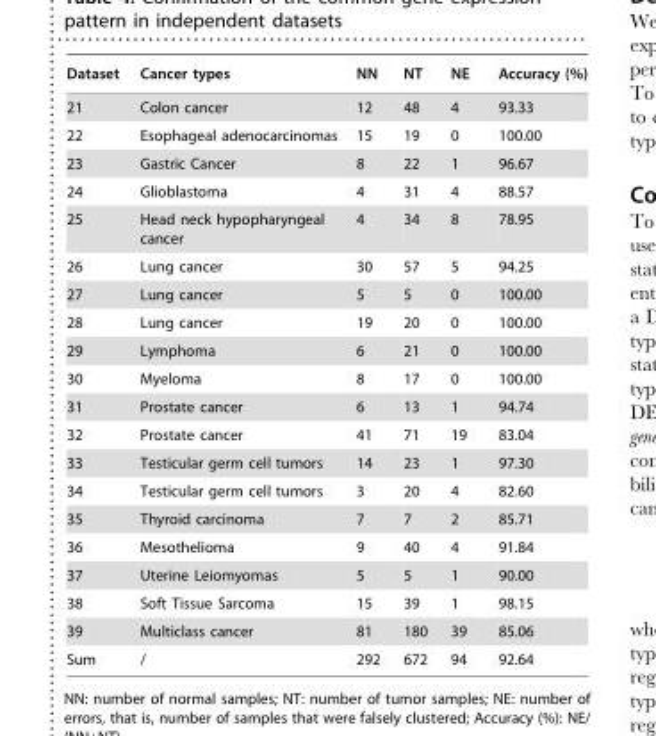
<table><thead><tr><td>Dataset</td><td>Cancer types</td><td>NN</td><td>NT</td><td>NE</td><td>Accuracy (%)</td></tr></thead><tbody><tr><td>21</td><td>Colon cancer</td><td>12</td><td>48</td><td>4</td><td>93.33</td></tr><tr><td>22</td><td>Esophageal adenocarcinomas</td><td>15</td><td>19</td><td>0</td><td>100.00</td></tr><tr><td>23</td><td>Gastric Cancer</td><td>8</td><td>22</td><td>1</td><td>96.67</td></tr><tr><td>24</td><td>Glioblastoma</td><td>4</td><td>31</td><td>4</td><td>88.57</td></tr><tr><td>25</td><td>Head neck hypopharyngeal cancer</td><td>4</td><td>34</td><td>8</td><td>78.95</td></tr><tr><td>26</td><td>Lung cancer</td><td>30</td><td>57</td><td>5</td><td>94.25</td></tr><tr><td>27</td><td>Lung cancer</td><td>5</td><td>5</td><td>0</td><td>100.00</td></tr><tr><td>28</td><td>Lung cancer</td><td>19</td><td>20</td><td>0</td><td>100.00</td></tr><tr><td>29</td><td>Lymphoma</td><td>6</td><td>21</td><td>0</td><td>100.00</td></tr><tr><td>30</td><td>Myeloma</td><td>8</td><td>17</td><td>0</td><td>100.00</td></tr><tr><td>31</td><td>Prostate cancer</td><td>6</td><td>13</td><td>1</td><td>94.74</td></tr><tr><td>32</td><td>Prostate cancer</td><td>41</td><td>71</td><td>19</td><td>83.04</td></tr><tr><td>33</td><td>Testicular germ cell tumors</td><td>14</td><td>23</td><td>1</td><td>97.30</td></tr><tr><td>34</td><td>Testicular germ cell tumors</td><td>3</td><td>20</td><td>4</td><td>82.60</td></tr><tr><td>35</td><td>Thyroid carcinoma</td><td>7</td><td>7</td><td>2</td><td>85.71</td></tr><tr><td>36</td><td>Mesothelioma</td><td>9</td><td>40</td><td>4</td><td>91.84</td></tr><tr><td>37</td><td>Uterine Leiomyomas</td><td>5</td><td>5</td><td>1</td><td>90.00</td></tr><tr><td>38</td><td>Soft Tissue Sarcoma</td><td>15</td><td>39</td><td>1</td><td>98.15</td></tr><tr><td>39</td><td>Multiclass cancer</td><td>81</td><td>180</td><td>39</td><td>85.06</td></tr><tr><td>Sum</td><td>/</td><td>292</td><td>672</td><td>94</td><td>92.64</td></tr></tbody></table>